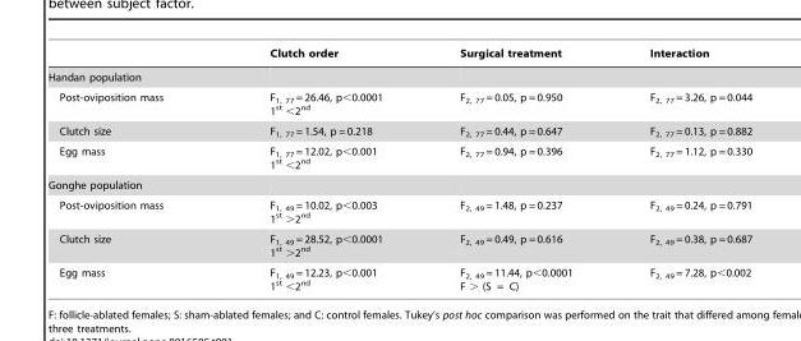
<table><thead><tr><td></td><td>Clutch order</td><td>Surgical treatment</td><td>Interaction</td></tr></thead><tbody><tr><td colspan="4">Handan population</td></tr><tr><td>Post-oviposition mass</td><td>F<sub>1, 77</sub> = 26.46, p&lt;0.0001 1<sup>st</sup> &lt;2<sup>nd</sup></td><td>F<sub>2, 77</sub> = 0.05, p = 0.950</td><td>F<sub>2, 77</sub> = 3.26, p = 0.044</td></tr><tr><td>Clutch size</td><td>F<sub>1, 77</sub> = 1.54, p = 0.218</td><td>F<sub>2, 77</sub> = 0.44, p = 0.647</td><td>F<sub>2, 77</sub> = 0.13, p = 0.882</td></tr><tr><td>Egg mass</td><td>F<sub>1, 77</sub> = 12.02, p&lt;0.001 1<sup>st</sup> &lt;2<sup>nd</sup></td><td>F<sub>2, 77</sub> = 0.94, p = 0.396</td><td>F<sub>2, 77</sub> = 1.12, p = 0.330</td></tr><tr><td colspan="4">Gonghe population</td></tr><tr><td>Post-oviposition mass</td><td>F<sub>1, 49</sub> = 10.02, p&lt;0.003 1<sup>st</sup> &gt;2<sup>nd</sup></td><td>F<sub>2, 49</sub> = 1.48, p = 0.237</td><td>F<sub>2, 49</sub> = 0.24, p = 0.791</td></tr><tr><td>Clutch size</td><td>F<sub>1, 49</sub> = 28.52, p&lt;0.0001 1<sup>st</sup> &gt;2<sup>nd</sup></td><td>F<sub>2, 49</sub> = 0.49, p = 0.616</td><td>F<sub>2, 49</sub> = 0.38, p = 0.687</td></tr><tr><td>Egg mass</td><td>F<sub>1, 49</sub> = 12.23, p&lt;0.001 1<sup>st</sup> &lt;2<sup>nd</sup></td><td>F<sub>2, 49</sub> = 11.44, p&lt;0.0001 F &gt; (S = C)</td><td>F<sub>2, 49</sub> = 7.28, p&lt;0.002</td></tr></tbody></table>